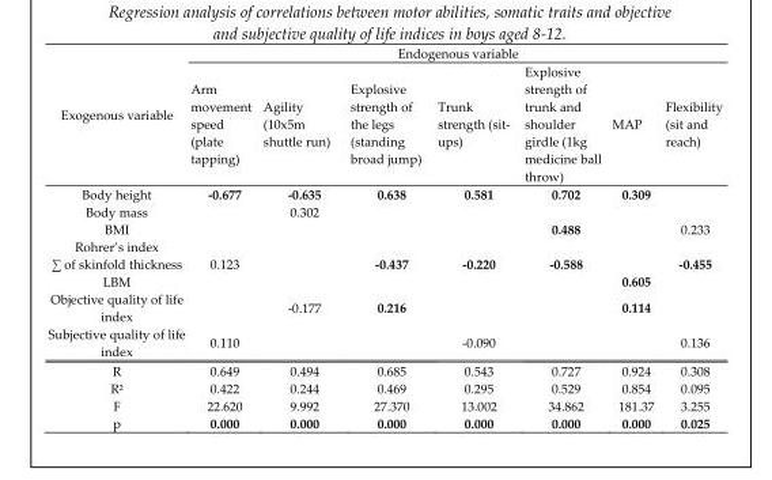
<table><thead><tr><td rowspan="2">Exogenous variable</td><td colspan="7">Endogenous variable</td></tr><tr><td>Arm movement speed (plate tapping)</td><td>Agility (10x5m shuttle run)</td><td>Explosive strength of the legs (standing broad jump)</td><td>Trunk strength (sit- ups)</td><td>Explosive strength of trunk and shoulder girdle (1kg medicine ball throw)</td><td>MAP</td><td>Flexibility (sit and reach)</td></tr></thead><tbody><tr><td>Body height</td><td>-0.677</td><td>-0.635</td><td>0.638</td><td>0.581</td><td>0.702</td><td>0.309</td><td></td></tr><tr><td>Body mass</td><td></td><td>0.302</td><td></td><td></td><td></td><td></td><td></td></tr><tr><td>BMI</td><td></td><td></td><td></td><td></td><td>0.488</td><td></td><td>0.233</td></tr><tr><td colspan="8">Rohrer’s index</td></tr><tr><td>∑ of skinfold thickness</td><td>0.123</td><td></td><td>-0.437</td><td>-0.220</td><td>-0.588</td><td></td><td>-0.455</td></tr><tr><td>LBM</td><td></td><td></td><td></td><td></td><td></td><td>0.605</td><td></td></tr><tr><td>Objective quality of life index</td><td></td><td>-0.177</td><td>0.216</td><td></td><td></td><td>0.114</td><td></td></tr><tr><td>Subjective quality of life index</td><td>0.110</td><td></td><td></td><td>-0.090</td><td></td><td></td><td>0.136</td></tr><tr><td>R</td><td>0.649</td><td>0.494</td><td>0.685</td><td>0.543</td><td>0.727</td><td>0.924</td><td>0.308</td></tr><tr><td>R<sup>2</sup></td><td>0.422</td><td>0.244</td><td>0.469</td><td>0.295</td><td>0.529</td><td>0.854</td><td>0.095</td></tr><tr><td>F</td><td>22.620</td><td>9.992</td><td>27.370</td><td>13.002</td><td>34.862</td><td>181.37</td><td>3.255</td></tr><tr><td>p</td><td>0.000</td><td>0.000</td><td>0.000</td><td>0.000</td><td>0.000</td><td>0.000</td><td>0.025</td></tr></tbody></table>